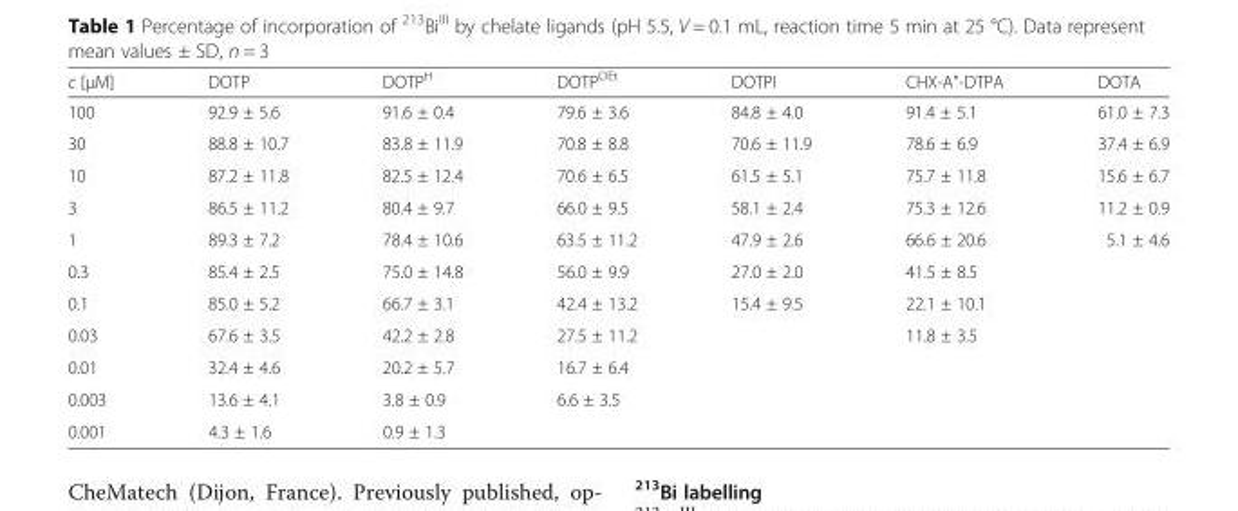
<table><thead><tr><td>c [μM]</td><td>DOTP</td><td>DOTP<sup>H</sup></td><td>DOTP<sup>OEt</sup></td><td>DOTPI</td><td>CHX-A&quot;-DTPA</td><td>DOTA</td></tr></thead><tbody><tr><td>100</td><td>92.9 ± 5.6</td><td>91.6 ± 0.4</td><td>79.6 ± 3.6</td><td>84.8 ± 4.0</td><td>91.4 ± 5.1</td><td>61.0 ± 7.3</td></tr><tr><td>30</td><td>88.8 ± 10.7</td><td>83.8 ± 11.9</td><td>70.8 ± 8.8</td><td>70.6 ± 11.9</td><td>78.6 ± 6.9</td><td>37.4 ± 6.9</td></tr><tr><td>10</td><td>87.2 ± 11.8</td><td>82.5 ± 12.4</td><td>70.6 ± 6.5</td><td>61.5 ± 5.1</td><td>75.7 ± 11.8</td><td>15.6 ± 6.7</td></tr><tr><td>3</td><td>86.5 ± 11.2</td><td>80.4 ± 9.7</td><td>66.0 ± 9.5</td><td>58.1 ± 2.4</td><td>75.3 ± 12.6</td><td>11.2 ± 0.9</td></tr><tr><td>1</td><td>89.3 ± 7.2</td><td>78.4 ± 10.6</td><td>63.5 ± 11.2</td><td>47.9 ± 2.6</td><td>66.6 ± 20.6</td><td rowspan="7">5.1 ± 4.6</td></tr><tr><td>0.3</td><td>85.4 ± 2.5</td><td>75.0 ± 14.8</td><td>56.0 ± 9.9</td><td>27.0 ± 2.0</td><td>41.5 ± 8.5</td></tr><tr><td>0.1</td><td>85.0 ± 5.2</td><td>66.7 ± 3.1</td><td>42.4 ± 13.2</td><td rowspan="5">15.4 ± 9.5</td><td>22.1 ± 10.1</td></tr><tr><td>0.03</td><td>67.6 ± 3.5</td><td>42.2 ± 2.8</td><td>27.5 ± 11.2</td><td rowspan="4">11.8 ± 3.5</td></tr><tr><td>0.01</td><td>32.4 ± 4.6</td><td>20.2 ± 5.7</td><td>16.7 ± 6.4</td></tr><tr><td>0.003</td><td>13.6 ± 4.1</td><td>3.8 ± 0.9</td><td rowspan="2">6.6 ± 3.5</td></tr><tr><td>0.001</td><td>4.3 ± 1.6</td><td>0.9 ± 1.3</td></tr></tbody></table>